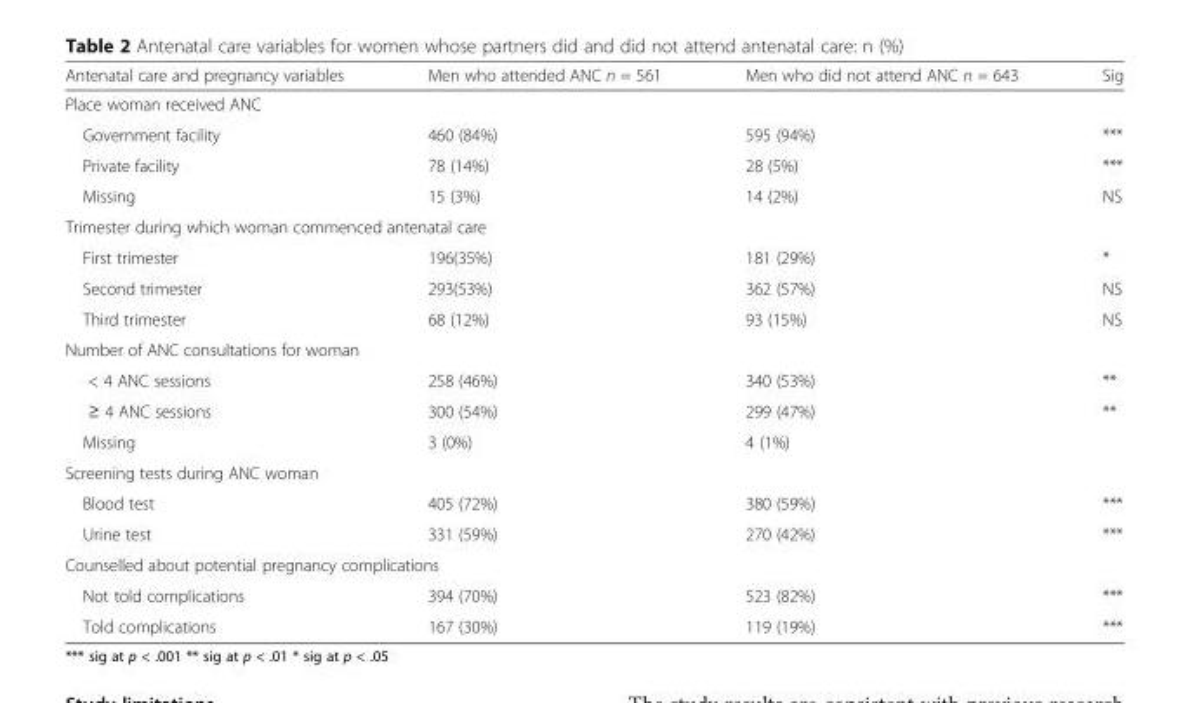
<table><thead><tr><td>Antenatal care and pregnancy variables</td><td>Men who attended ANC n = 561</td><td>Men who did not attend ANC n = 643</td><td>Sig</td></tr></thead><tbody><tr><td colspan="4">Place woman received ANC</td></tr><tr><td>Government facility</td><td>460 (84%)</td><td>595 (94%)</td><td>***</td></tr><tr><td>Private facility</td><td>78 (14%)</td><td>28 (5%)</td><td>***</td></tr><tr><td>Missing</td><td>15 (3%)</td><td>14 (2%)</td><td>NS</td></tr><tr><td colspan="4">Trimester during which woman commenced antenatal care</td></tr><tr><td>First trimester</td><td>196(35%)</td><td>181 (29%)</td><td>*</td></tr><tr><td>Second trimester</td><td>293(53%)</td><td>362 (57%)</td><td>NS</td></tr><tr><td>Third trimester</td><td>68 (12%)</td><td>93 (15%)</td><td>NS</td></tr><tr><td colspan="4">Number of ANC consultations for woman</td></tr><tr><td>&lt; 4 ANC sessions</td><td>258 (46%)</td><td>340 (53%)</td><td>**</td></tr><tr><td>≥ 4 ANC sessions</td><td>300 (54%)</td><td>299 (47%)</td><td>**</td></tr><tr><td>Missing</td><td>3 (0%)</td><td>4 (1%)</td><td></td></tr><tr><td colspan="4">Screening tests during ANC woman</td></tr><tr><td>Blood test</td><td>405 (72%)</td><td>380 (59%)</td><td>***</td></tr><tr><td>Urine test</td><td>331 (59%)</td><td>270 (42%)</td><td>***</td></tr><tr><td colspan="4">Counselled about potential pregnancy complications</td></tr><tr><td>Not told complications</td><td>394 (70%)</td><td>523 (82%)</td><td>***</td></tr><tr><td>Told complications</td><td>167 (30%)</td><td>119 (19%)</td><td>***</td></tr></tbody></table>